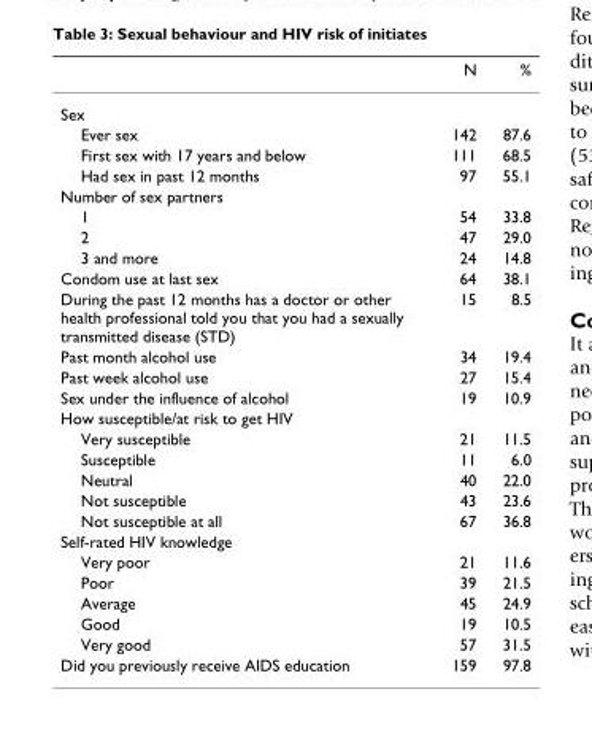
<table><thead><tr><td></td><td>N</td><td>%</td></tr></thead><tbody><tr><td colspan="3">Sex</td></tr><tr><td>Ever sex</td><td>142</td><td>87.6</td></tr><tr><td>First sex with 17 years and below</td><td>111</td><td>68.5</td></tr><tr><td>Had sex in past 12 months</td><td>97</td><td>55.1</td></tr><tr><td colspan="3">Number of sex partners</td></tr><tr><td>1</td><td>54</td><td>33.8</td></tr><tr><td>2</td><td>47</td><td>29.0</td></tr><tr><td>3 and more</td><td>24</td><td>14.8</td></tr><tr><td>Condom use at last sex</td><td>64</td><td>38.1</td></tr><tr><td>During the past 12 months has a doctor or other health professional told you that you had a sexually transmitted disease (STD)</td><td>15</td><td>8.5</td></tr><tr><td>Past month alcohol use</td><td>34</td><td>19.4</td></tr><tr><td>Past week alcohol use</td><td>27</td><td>15.4</td></tr><tr><td>Sex under the influence of alcohol</td><td>19</td><td>10.9</td></tr><tr><td colspan="3">How susceptible/at risk to get HIV</td></tr><tr><td>Very susceptible</td><td>21</td><td>11.5</td></tr><tr><td>Susceptible</td><td>11</td><td>6.0</td></tr><tr><td>Neutral</td><td>40</td><td>22.0</td></tr><tr><td>Not susceptible</td><td>43</td><td>23.6</td></tr><tr><td>Not susceptible at all</td><td>67</td><td>36.8</td></tr><tr><td colspan="3">Self-rated HIV knowledge</td></tr><tr><td>Very poor</td><td>21</td><td>11.6</td></tr><tr><td>Poor</td><td>39</td><td>21.5</td></tr><tr><td>Average</td><td>45</td><td>24.9</td></tr><tr><td>Good</td><td>19</td><td>10.5</td></tr><tr><td>Very good</td><td>57</td><td>31.5</td></tr><tr><td>Did you previously receive AIDS education</td><td>159</td><td>97.8</td></tr></tbody></table>